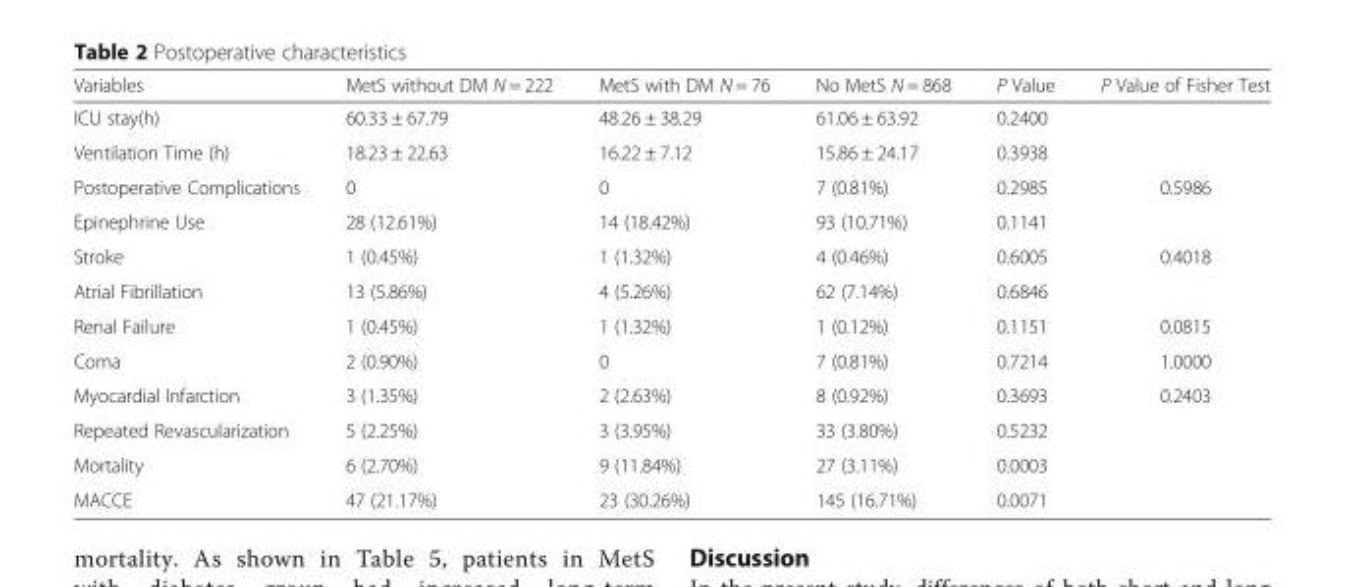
<table><thead><tr><td>Variables</td><td>MetS without DM N = 222</td><td>MetS with DM N = 76</td><td>No MetS N = 868</td><td>P Value</td><td>P Value of Fisher Test</td></tr></thead><tbody><tr><td>ICU stay(h)</td><td>60.33 ± 67.79</td><td>48.26 ± 38.29</td><td>61.06 ± 63.92</td><td>0.2400</td><td></td></tr><tr><td>Ventilation Time (h)</td><td>18.23 ± 22.63</td><td>16.22 ± 7.12</td><td>15.86 ± 24.17</td><td>0.3938</td><td></td></tr><tr><td>Postoperative Complications</td><td>0</td><td>0</td><td>7 (0.81%)</td><td>0.2985</td><td>0.5986</td></tr><tr><td>Epinephrine Use</td><td>28 (12.61%)</td><td>14 (18.42%)</td><td>93 (10.71%)</td><td>0.1141</td><td></td></tr><tr><td>Stroke</td><td>1 (0.45%)</td><td>1 (1.32%)</td><td>4 (0.46%)</td><td>0.6005</td><td>0.4018</td></tr><tr><td>Atrial Fibrillation</td><td>13 (5.86%)</td><td>4 (5.26%)</td><td>62 (7.14%)</td><td>0.6846</td><td></td></tr><tr><td>Renal Failure</td><td>1 (0.45%)</td><td>1 (1.32%)</td><td>1 (0.12%)</td><td>0.1151</td><td>0.0815</td></tr><tr><td>Coma</td><td>2 (0.90%)</td><td>0</td><td>7 (0.81%)</td><td>0.7214</td><td>1.0000</td></tr><tr><td>Myocardial Infarction</td><td>3 (1.35%)</td><td>2 (2.63%)</td><td>8 (0.92%)</td><td>0.3693</td><td>0.2403</td></tr><tr><td>Repeated Revascularization</td><td>5 (2.25%)</td><td>3 (3.95%)</td><td>33 (3.80%)</td><td>0.5232</td><td></td></tr><tr><td>Mortality</td><td>6 (2.70%)</td><td>9 (11.84%)</td><td>27 (3.11%)</td><td>0.0003</td><td></td></tr><tr><td>MACCE</td><td>47 (21.17%)</td><td>23 (30.26%)</td><td>145 (16.71%)</td><td>0.0071</td><td></td></tr></tbody></table>